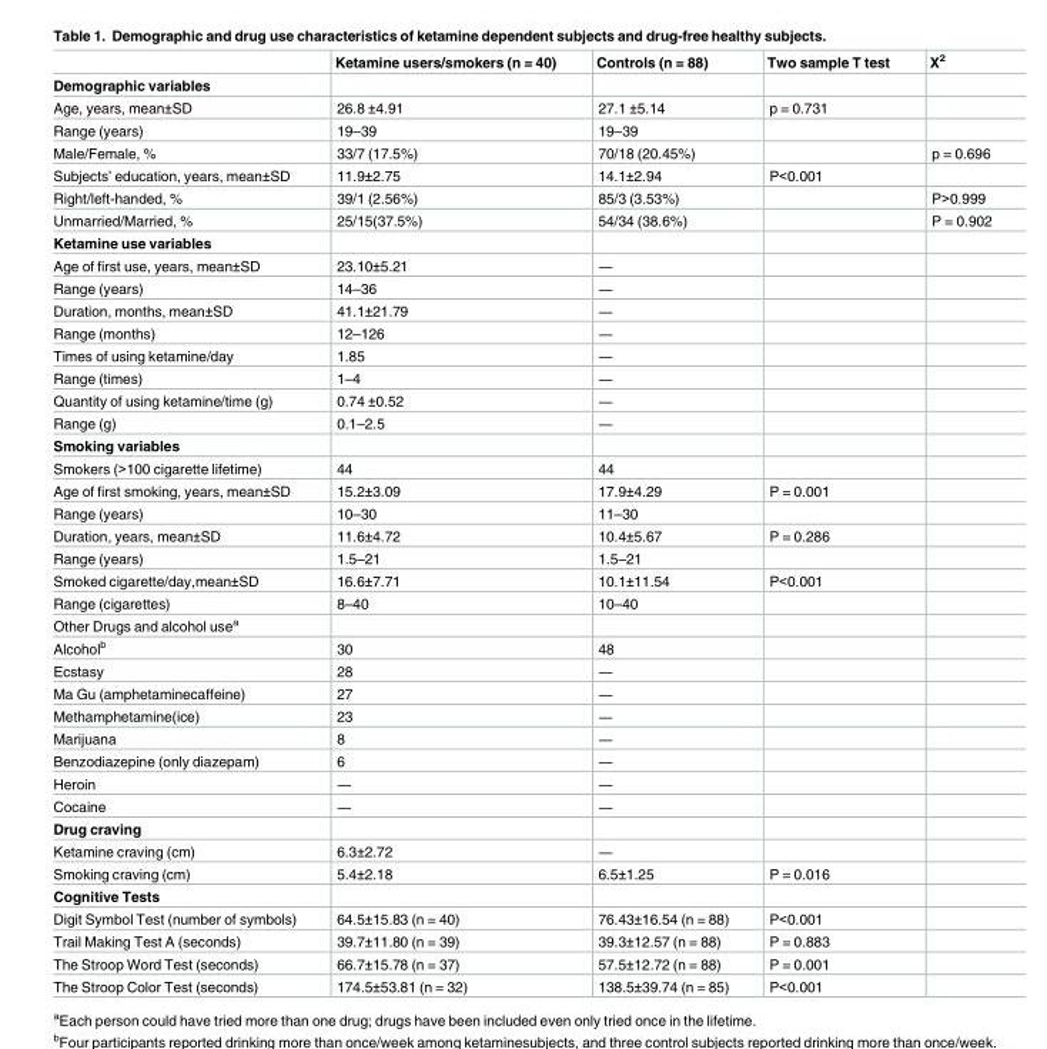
<table><thead><tr><td></td><td>Ketamine users/smokers (n = 40)</td><td>Controls (n = 88)</td><td>Two sample T test</td><td>X<sup>2</sup></td></tr></thead><tbody><tr><td colspan="5">Demographic variables</td></tr><tr><td>Age, years, mean±SD</td><td>26.8 ±4.91</td><td>27.1 ±5.14</td><td>p = 0.731</td><td></td></tr><tr><td>Range (years)</td><td>19–39</td><td>19–39</td><td></td><td></td></tr><tr><td>Male/Female, %</td><td>33/7 (17.5%)</td><td>70/18 (20.45%)</td><td></td><td>p = 0.696</td></tr><tr><td>Subjects’ education, years, mean±SD</td><td>11.9±2.75</td><td>14.1±2.94</td><td>P&lt;0.001</td><td></td></tr><tr><td>Right/left-handed, %</td><td>39/1 (2.56%)</td><td>85/3 (3.53%)</td><td></td><td>P&gt;0.999</td></tr><tr><td>Unmarried/Married, %</td><td>25/15(37.5%)</td><td>54/34 (38.6%)</td><td></td><td>P = 0.902</td></tr><tr><td colspan="5">Ketamine use variables</td></tr><tr><td>Age of first use, years, mean±SD</td><td>23.10±5.21</td><td>―</td><td></td><td></td></tr><tr><td>Range (years)</td><td>14–36</td><td>―</td><td></td><td></td></tr><tr><td>Duration, months, mean±SD</td><td>41.1±21.79</td><td>―</td><td></td><td></td></tr><tr><td>Range (months)</td><td>12–126</td><td>―</td><td></td><td></td></tr><tr><td>Times of using ketamine/day</td><td>1.85</td><td>―</td><td></td><td></td></tr><tr><td>Range (times)</td><td>1–4</td><td>―</td><td></td><td></td></tr><tr><td>Quantity of using ketamine/time (g)</td><td>0.74 ±0.52</td><td>―</td><td></td><td></td></tr><tr><td>Range (g)</td><td>0.1–2.5</td><td>―</td><td></td><td></td></tr><tr><td colspan="5">Smoking variables</td></tr><tr><td>Smokers (&gt;100 cigarette lifetime)</td><td>44</td><td>44</td><td></td><td></td></tr><tr><td>Age of first smoking, years, mean±SD</td><td>15.2±3.09</td><td>17.9±4.29</td><td>P = 0.001</td><td></td></tr><tr><td>Range (years)</td><td>10–30</td><td>11–30</td><td></td><td></td></tr><tr><td>Duration, years, mean±SD</td><td>11.6±4.72</td><td>10.4±5.67</td><td>P = 0.286</td><td></td></tr><tr><td>Range (years)</td><td>1.5–21</td><td>1.5–21</td><td></td><td></td></tr><tr><td>Smoked cigarette/day,mean±SD</td><td>16.6±7.71</td><td>10.1±11.54</td><td>P&lt;0.001</td><td></td></tr><tr><td>Range (cigarettes)</td><td>8–40</td><td>10–40</td><td></td><td></td></tr><tr><td colspan="5">Other Drugs and alcohol use<sup>a</sup></td></tr><tr><td>Alcohol<sup>b</sup></td><td>30</td><td>48</td><td></td><td></td></tr><tr><td>Ecstasy</td><td>28</td><td>―</td><td></td><td></td></tr><tr><td>Ma Gu (amphetaminecaffeine)</td><td>27</td><td>―</td><td></td><td></td></tr><tr><td>Methamphetamine(ice)</td><td>23</td><td>―</td><td></td><td></td></tr><tr><td>Marijuana</td><td>8</td><td>―</td><td></td><td></td></tr><tr><td>Benzodiazepine (only diazepam)</td><td>6</td><td>―</td><td></td><td></td></tr><tr><td>Heroin</td><td>―</td><td>―</td><td></td><td></td></tr><tr><td>Cocaine</td><td>―</td><td>―</td><td></td><td></td></tr><tr><td colspan="5">Drug craving</td></tr><tr><td>Ketamine craving (cm)</td><td>6.3±2.72</td><td>―</td><td></td><td></td></tr><tr><td>Smoking craving (cm)</td><td>5.4±2.18</td><td>6.5±1.25</td><td>P = 0.016</td><td></td></tr><tr><td colspan="5">Cognitive Tests</td></tr><tr><td>Digit Symbol Test (number of symbols)</td><td>64.5±15.83 (n = 40)</td><td>76.43±16.54 (n = 88)</td><td>P&lt;0.001</td><td></td></tr><tr><td>Trail Making Test A (seconds)</td><td>39.7±11.80 (n = 39)</td><td>39.3±12.57 (n = 88)</td><td>P = 0.883</td><td></td></tr><tr><td>The Stroop Word Test (seconds)</td><td>66.7±15.78 (n = 37)</td><td>57.5±12.72 (n = 88)</td><td>P = 0.001</td><td></td></tr><tr><td>The Stroop Color Test (seconds)</td><td>174.5±53.81 (n = 32)</td><td>138.5±39.74 (n = 85)</td><td>P&lt;0.001</td><td></td></tr></tbody></table>